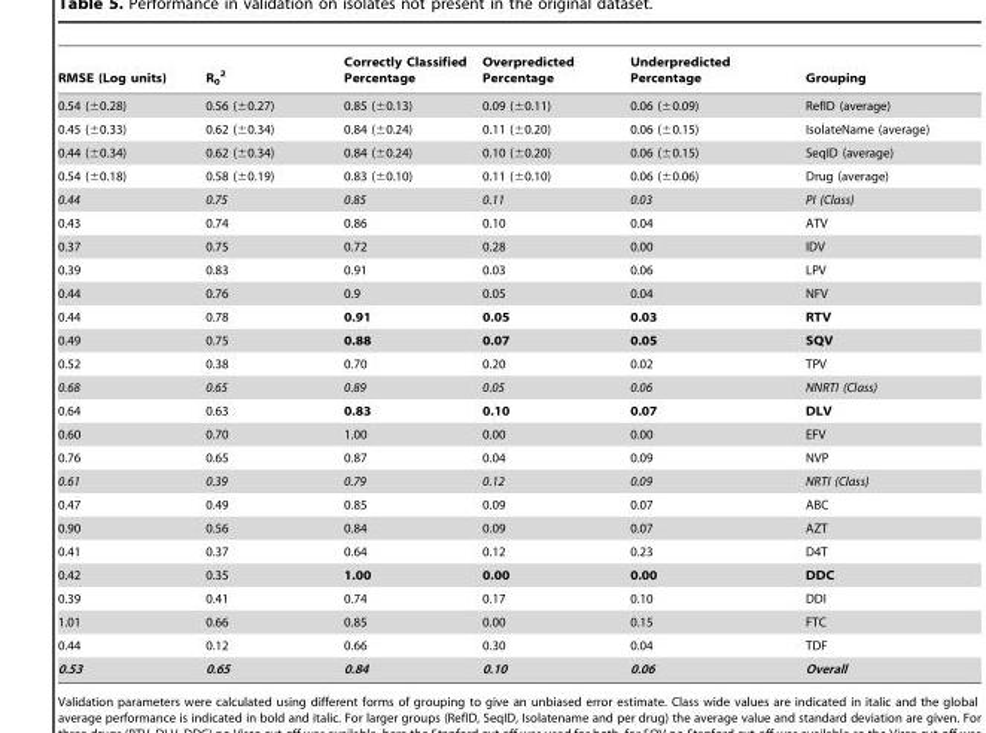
<table><thead><tr><td>RMSE (Log units)</td><td>R<sub>0</sub> <sup>2</sup></td><td>Correctly Classified Percentage</td><td>Overpredicted Percentage</td><td>Underpredicted Percentage</td><td>Grouping</td></tr></thead><tbody><tr><td>0.54 (±0.28)</td><td>0.56 (±0.27)</td><td>0.85 (±0.13)</td><td>0.09 (±0.11)</td><td>0.06 (±0.09)</td><td>RefID (average)</td></tr><tr><td>0.45 (±0.33)</td><td>0.62 (±0.34)</td><td>0.84 (±0.24)</td><td>0.11 (±0.20)</td><td>0.06 (±0.15)</td><td>IsolateName (average)</td></tr><tr><td>0.44 (±0.34)</td><td>0.62 (±0.34)</td><td>0.84 (±0.24)</td><td>0.10 (±0.20)</td><td>0.06 (±0.15)</td><td>SeqID (average)</td></tr><tr><td>0.54 (±0.18)</td><td>0.58 (±0.19)</td><td>0.83 (±0.10)</td><td>0.11 (±0.10)</td><td>0.06 (±0.06)</td><td>Drug (average)</td></tr><tr><td>0.44</td><td>0.75</td><td>0.85</td><td>0.11</td><td>0.03</td><td>PI (Class)</td></tr><tr><td>0.43</td><td>0.74</td><td>0.86</td><td>0.10</td><td>0.04</td><td>ATV</td></tr><tr><td>0.37</td><td>0.75</td><td>0.72</td><td>0.28</td><td>0.00</td><td>IDV</td></tr><tr><td>0.39</td><td>0.83</td><td>0.91</td><td>0.03</td><td>0.06</td><td>LPV</td></tr><tr><td>0.44</td><td>0.76</td><td>0.9</td><td>0.05</td><td>0.04</td><td>NFV</td></tr><tr><td>0.44</td><td>0.78</td><td>0.91</td><td>0.05</td><td>0.03</td><td>RTV</td></tr><tr><td>0.49</td><td>0.75</td><td>0.88</td><td>0.07</td><td>0.05</td><td>SQV</td></tr><tr><td>0.52</td><td>0.38</td><td>0.70</td><td>0.20</td><td>0.02</td><td>TPV</td></tr><tr><td>0.68</td><td>0.65</td><td>0.89</td><td>0.05</td><td>0.06</td><td>NNRTI (Class)</td></tr><tr><td>0.64</td><td>0.63</td><td>0.83</td><td>0.10</td><td>0.07</td><td>DLV</td></tr><tr><td>0.60</td><td>0.70</td><td>1.00</td><td>0.00</td><td>0.00</td><td>EFV</td></tr><tr><td>0.76</td><td>0.65</td><td>0.87</td><td>0.04</td><td>0.09</td><td>NVP</td></tr><tr><td>0.61</td><td>0.39</td><td>0.79</td><td>0.12</td><td>0.09</td><td>NRTI (Class)</td></tr><tr><td>0.47</td><td>0.49</td><td>0.85</td><td>0.09</td><td>0.07</td><td>ABC</td></tr><tr><td>0.90</td><td>0.56</td><td>0.84</td><td>0.09</td><td>0.07</td><td>AZT</td></tr><tr><td>0.41</td><td>0.37</td><td>0.64</td><td>0.12</td><td>0.23</td><td>D4T</td></tr><tr><td>0.42</td><td>0.35</td><td>1.00</td><td>0.00</td><td>0.00</td><td>DDC</td></tr><tr><td>0.39</td><td>0.41</td><td>0.74</td><td>0.17</td><td>0.10</td><td>DDI</td></tr><tr><td>1.01</td><td>0.66</td><td>0.85</td><td>0.00</td><td>0.15</td><td>FTC</td></tr><tr><td>0.44</td><td>0.12</td><td>0.66</td><td>0.30</td><td>0.04</td><td>TDF</td></tr><tr><td>0.53</td><td>0.65</td><td>0.84</td><td>0.10</td><td>0.06</td><td>Overall</td></tr></tbody></table>